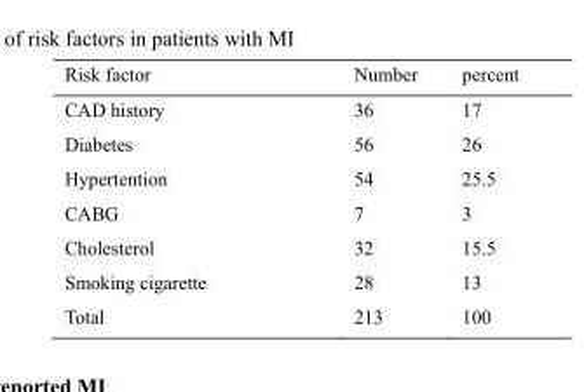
<table><thead><tr><td>Risk factor</td><td>Number</td><td>percent</td></tr></thead><tbody><tr><td>CAD history</td><td>36</td><td>17</td></tr><tr><td>Diabetes</td><td>56</td><td>26</td></tr><tr><td>Hypertention</td><td>54</td><td>25.5</td></tr><tr><td>CABG</td><td>7</td><td>3</td></tr><tr><td>Cholesterol</td><td>32</td><td>15.5</td></tr><tr><td>Smoking cigarette</td><td>28</td><td>13</td></tr><tr><td>Total</td><td>213</td><td>100</td></tr></tbody></table>